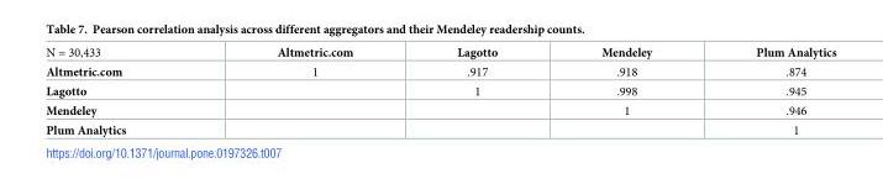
<table><tbody><tr><td>N = 30,433</td><td>Altmetric.com</td><td>Lagotto</td><td>Mendeley</td><td>Plum Analytics</td></tr><tr><td>Altmetric.com</td><td>1</td><td>.917</td><td>.918</td><td>.874</td></tr><tr><td>Lagotto</td><td></td><td>1</td><td>.998</td><td>.945</td></tr><tr><td>Mendeley</td><td></td><td></td><td>1</td><td>.946</td></tr><tr><td>Plum Analytics</td><td></td><td></td><td></td><td>1</td></tr></tbody></table>